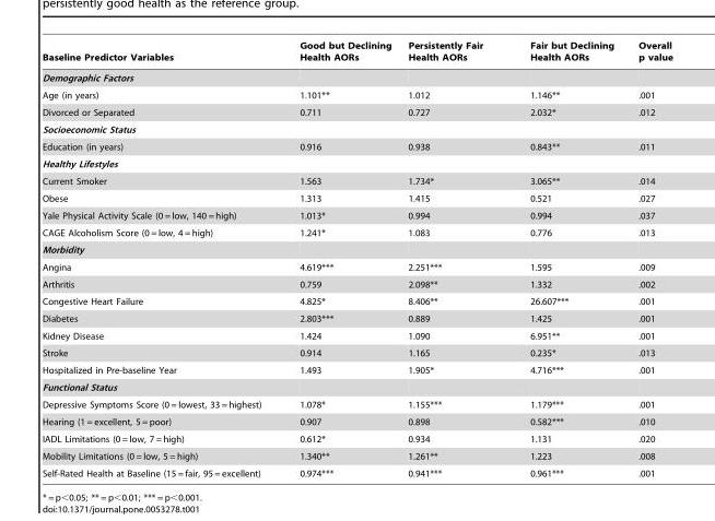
<table><thead><tr><td>Baseline Predictor Variables</td><td>Good but Declining Health AORs</td><td>Persistently Fair Health AORs</td><td>Fair but Declining Health AORs</td><td>Overall p value</td></tr></thead><tbody><tr><td colspan="5">Demographic Factors</td></tr><tr><td>Age (in years)</td><td>1.101**</td><td>1.012</td><td>1.146**</td><td>.001</td></tr><tr><td>Divorced or Separated</td><td>0.711</td><td>0.727</td><td>2.032*</td><td>.012</td></tr><tr><td colspan="5">Socioeconomic Status</td></tr><tr><td>Education (in years)</td><td>0.916</td><td>0.938</td><td>0.843**</td><td>.011</td></tr><tr><td colspan="5">Healthy Lifestyles</td></tr><tr><td>Current Smoker</td><td>1.563</td><td>1.734*</td><td>3.065**</td><td>.014</td></tr><tr><td>Obese</td><td>1.313</td><td>1.415</td><td>0.521</td><td>.027</td></tr><tr><td>Yale Physical Activity Scale (0 = low, 140 = high)</td><td>1.013*</td><td>0.994</td><td>0.994</td><td>.037</td></tr><tr><td>CAGE Alcoholism Score (0 = low, 4 = high)</td><td>1.241*</td><td>1.083</td><td>0.776</td><td>.013</td></tr><tr><td colspan="5">Morbidity</td></tr><tr><td>Angina</td><td>4.619***</td><td>2.251***</td><td>1.595</td><td>.009</td></tr><tr><td>Arthritis</td><td>0.759</td><td>2.098**</td><td>1.332</td><td>.002</td></tr><tr><td>Congestive Heart Failure</td><td>4.825*</td><td>8.406**</td><td>26.607***</td><td>.001</td></tr><tr><td>Diabetes</td><td>2.803***</td><td>0.889</td><td>1.425</td><td>.001</td></tr><tr><td>Kidney Disease</td><td>1.424</td><td>1.090</td><td>6.951**</td><td>.001</td></tr><tr><td>Stroke</td><td>0.914</td><td>1.165</td><td>0.235*</td><td>.013</td></tr><tr><td>Hospitalized in Pre-baseline Year</td><td>1.493</td><td>1.905*</td><td>4.716***</td><td>.001</td></tr><tr><td colspan="5">Functional Status</td></tr><tr><td>Depressive Symptoms Score (0 = lowest, 33 = highest)</td><td>1.078*</td><td>1.155***</td><td>1.179***</td><td>.001</td></tr><tr><td>Hearing (1 = excellent, 5 = poor)</td><td>0.907</td><td>0.898</td><td>0.582***</td><td>.010</td></tr><tr><td>IADL Limitations (0 = low, 7 = high)</td><td>0.612*</td><td>0.934</td><td>1.131</td><td>.020</td></tr><tr><td>Mobility Limitations (0 = low, 5 = high)</td><td>1.340**</td><td>1.261**</td><td>1.223</td><td>.008</td></tr><tr><td>Self-Rated Health at Baseline (15 = fair, 95 = excellent)</td><td>0.974***</td><td>0.941***</td><td>0.961***</td><td>.001</td></tr></tbody></table>